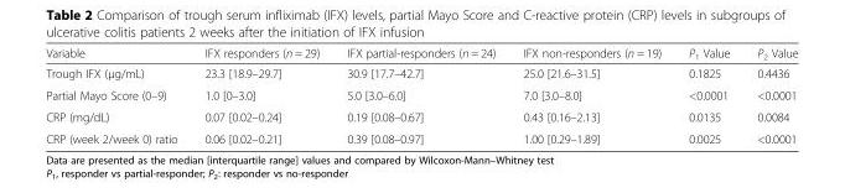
<table><thead><tr><td>Variable</td><td>IFX responders (n = 29)</td><td>IFX partial-responders (n = 24)</td><td>IFX non-responders (n = 19)</td><td>P<sub>1</sub> Value</td><td>P<sub>2</sub> Value</td></tr></thead><tbody><tr><td>Trough IFX (μg/mL)</td><td>23.3 [18.9–29.7]</td><td>30.9 [17.7–42.7]</td><td>25.0 [21.6–31.5]</td><td>0.1825</td><td>0.4436</td></tr><tr><td>Partial Mayo Score (0–9)</td><td>1.0 [0–3.0]</td><td>5.0 [3.0–6.0]</td><td>7.0 [3.0–8.0]</td><td>&lt;0.0001</td><td>&lt;0.0001</td></tr><tr><td>CRP (mg/dL)</td><td>0.07 [0.02–0.24]</td><td>0.19 [0.08–0.67]</td><td>0.43 [0.16–2.13]</td><td>0.0135</td><td>0.0084</td></tr><tr><td>CRP (week 2/week 0) ratio</td><td>0.06 [0.02–0.21]</td><td>0.39 [0.08–0.97]</td><td>1.00 [0.29–1.89]</td><td>0.0025</td><td>&lt;0.0001</td></tr></tbody></table>